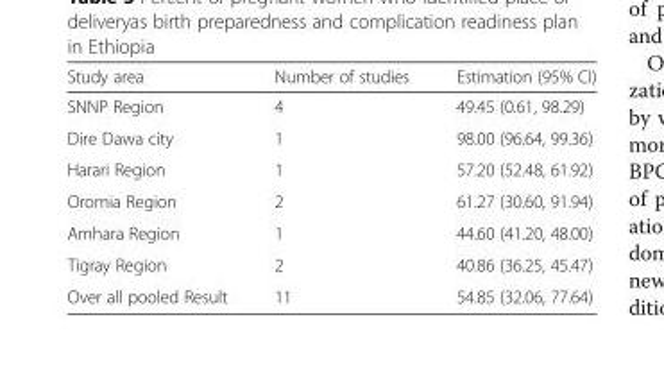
<table><thead><tr><td>Study area</td><td>Number of studies</td><td>Estimation (95% CI)</td></tr></thead><tbody><tr><td>SNNP Region</td><td>4</td><td>49.45 (0.61, 98.29)</td></tr><tr><td>Dire Dawa city</td><td>1</td><td>98.00 (96.64, 99.36)</td></tr><tr><td>Harari Region</td><td>1</td><td>57.20 (52.48, 61.92)</td></tr><tr><td>Oromia Region</td><td>2</td><td>61.27 (30.60, 91.94)</td></tr><tr><td>Amhara Region</td><td>1</td><td>44.60 (41.20, 48.00)</td></tr><tr><td>Tigray Region</td><td>2</td><td>40.86 (36.25, 45.47)</td></tr><tr><td>Over all pooled Result</td><td>11</td><td>54.85 (32.06, 77.64)</td></tr></tbody></table>